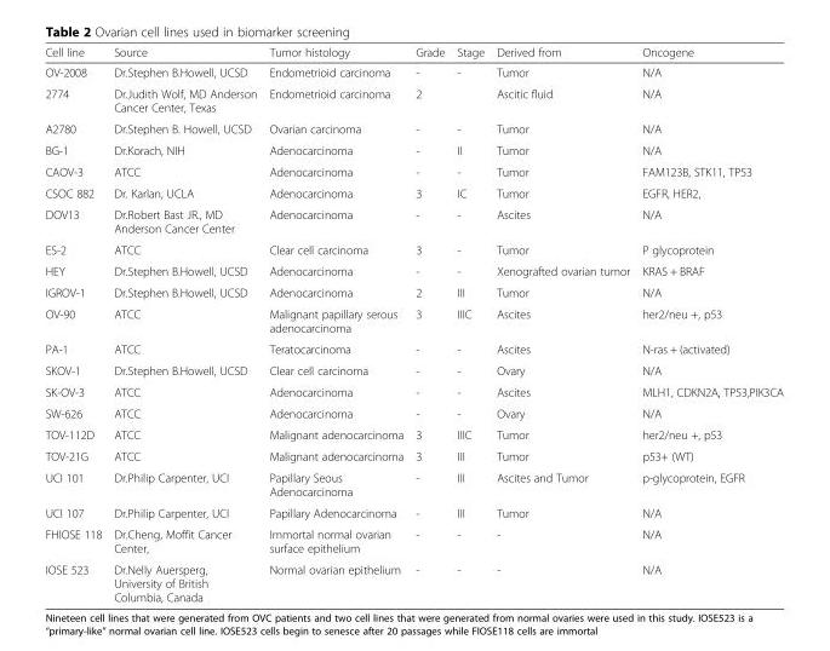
<table><thead><tr><td>Cell line</td><td>Source</td><td>Tumor histology</td><td>Grade</td><td>Stage</td><td>Derived from</td><td>Oncogene</td></tr></thead><tbody><tr><td>OV-2008</td><td>Dr.Stephen B.Howell, UCSD</td><td>Endometrioid carcinoma</td><td>-</td><td>-</td><td>Tumor</td><td>N/A</td></tr><tr><td>2774</td><td>Dr.Judith Wolf, MD Anderson Cancer Center, Texas</td><td>Endometrioid carcinoma</td><td>2</td><td></td><td>Ascitic fluid</td><td>N/A</td></tr><tr><td>A2780</td><td>Dr.Stephen B. Howell, UCSD</td><td>Ovarian carcinoma</td><td>-</td><td>-</td><td>Tumor</td><td>N/A</td></tr><tr><td>BG-1</td><td>Dr.Korach, NIH</td><td>Adenocarcinoma</td><td>-</td><td>II</td><td>Tumor</td><td>N/A</td></tr><tr><td>CAOV-3</td><td>ATCC</td><td>Adenocarcinoma</td><td>-</td><td>-</td><td>Tumor</td><td>FAM123B, STK11, TP53</td></tr><tr><td>CSOC 882</td><td>Dr. Karlan, UCLA</td><td>Adenocarcinoma</td><td>3</td><td>IC</td><td>Tumor</td><td>EGFR, HER2,</td></tr><tr><td>DOV13</td><td>Dr.Robert Bast JR., MD Anderson Cancer Center</td><td>Adenocarcinoma</td><td>-</td><td>-</td><td>Ascites</td><td>N/A</td></tr><tr><td>ES-2</td><td>ATCC</td><td>Clear cell carcinoma</td><td>3</td><td>-</td><td>Tumor</td><td>P glycoprotein</td></tr><tr><td>HEY</td><td>Dr.Stephen B.Howell, UCSD</td><td>Adenocarcinoma</td><td>-</td><td>-</td><td>Xenografted ovarian tumor</td><td>KRAS + BRAF</td></tr><tr><td>IGROV-1</td><td>Dr.Stephen B.Howell, UCSD</td><td>Adenocarcinoma</td><td>2</td><td>III</td><td>Tumor</td><td>N/A</td></tr><tr><td>OV-90</td><td>ATCC</td><td>Malignant papillary serous adenocarcinoma</td><td>3</td><td>IIIC</td><td>Ascites</td><td>her2/neu +, p53</td></tr><tr><td>PA-1</td><td>ATCC</td><td>Teratocarcinoma</td><td>-</td><td>-</td><td>Ascites</td><td>N-ras + (activated)</td></tr><tr><td>SKOV-1</td><td>Dr.Stephen B.Howell, UCSD</td><td>Clear cell carcinoma</td><td>-</td><td>-</td><td>Ovary</td><td>N/A</td></tr><tr><td>SK-OV-3</td><td>ATCC</td><td>Adenocarcinoma</td><td>-</td><td>-</td><td>Ascites</td><td>MLH1, CDKN2A, TP53,PIK3CA</td></tr><tr><td>SW-626</td><td>ATCC</td><td>Adenocarcinoma</td><td>-</td><td>-</td><td>Ovary</td><td>N/A</td></tr><tr><td>TOV-112D</td><td>ATCC</td><td>Malignant adenocarcinoma</td><td>3</td><td>IIIC</td><td>Tumor</td><td>her2/neu +, p53</td></tr><tr><td>TOV-21G</td><td>ATCC</td><td>Malignant adenocarcinoma</td><td>3</td><td>III</td><td>Tumor</td><td>p53+ (WT)</td></tr><tr><td>UCI 101</td><td>Dr.Philip Carpenter, UCI</td><td>Papillary Seous Adenocarcinoma</td><td>-</td><td>III</td><td>Ascites and Tumor</td><td>p-glycoprotein, EGFR</td></tr><tr><td>UCI 107</td><td>Dr.Philip Carpenter, UCI</td><td>Papillary Adenocarcinoma</td><td>-</td><td>III</td><td>Tumor</td><td>N/A</td></tr><tr><td>FHIOSE 118</td><td>Dr.Cheng, Moffit Cancer Center,</td><td>Immortal normal ovarian surface epithelium</td><td>-</td><td>-</td><td>-</td><td>N/A</td></tr><tr><td>IOSE 523</td><td>Dr.Nelly Auersperg, University of British Columbia, Canada</td><td>Normal ovarian epithelium</td><td>-</td><td>-</td><td>-</td><td>N/A</td></tr></tbody></table>